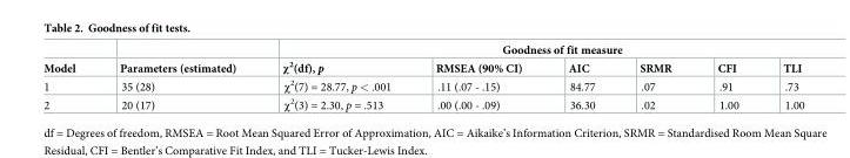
<table><thead><tr><td rowspan="2">Model</td><td rowspan="2">Parameters (estimated)</td><td colspan="6">Goodness of fit measure</td></tr><tr><td>χ<sup>2</sup>(df), p</td><td>RMSEA (90% CI)</td><td>AIC</td><td>SRMR</td><td>CFI</td><td>TLI</td></tr></thead><tbody><tr><td>1</td><td>35 (28)</td><td>χ<sup>2</sup>(7) = 28.77, p &lt; .001</td><td>.11 (.07 - .15)</td><td>84.77</td><td>.07</td><td>.91</td><td>.73</td></tr><tr><td>2</td><td>20 (17)</td><td>χ<sup>2</sup>(3) = 2.30, p = .513</td><td>.00 (.00 - .09)</td><td>36.30</td><td>.02</td><td>1.00</td><td>1.00</td></tr></tbody></table>